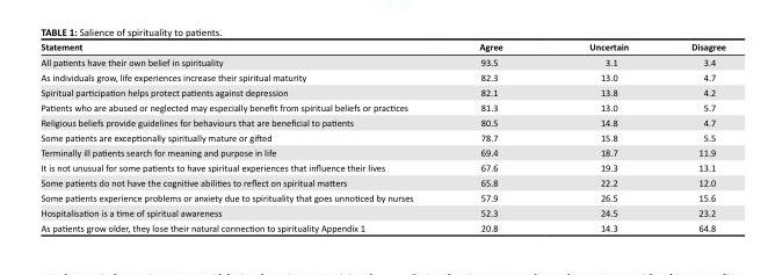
<table><thead><tr><td>Statement</td><td>Agree</td><td>Uncertain</td><td>Disagree</td></tr></thead><tbody><tr><td>All patients have their own belief in spirituality</td><td>93.5</td><td>3.1</td><td>3.4</td></tr><tr><td>As individuals grow, life experiences increase their spiritual maturity</td><td>82.3</td><td>13.0</td><td>4.7</td></tr><tr><td>Spiritual participation helps protect patients against depression</td><td>82.1</td><td>13.8</td><td>4.2</td></tr><tr><td>Patients who are abused or neglected may especially benefit from spiritual beliefs or practices</td><td>81.3</td><td>13.0</td><td>5.7</td></tr><tr><td>Religious beliefs provide guidelines for behaviours that are beneficial to patients</td><td>80.5</td><td>14.8</td><td>4.7</td></tr><tr><td>Some patients are exceptionally spiritually mature or gifted</td><td>78.7</td><td>15.8</td><td>5.5</td></tr><tr><td>Terminally ill patients search for meaning and purpose in life</td><td>69.4</td><td>18.7</td><td>11.9</td></tr><tr><td>It is not unusual for some patients to have spiritual experiences that influence their lives</td><td>67.6</td><td>19.3</td><td>13.1</td></tr><tr><td>Some patients do not have the cognitive abilities to reflect on spiritual matters</td><td>65.8</td><td>22.2</td><td>12.0</td></tr><tr><td>Some patients experience problems or anxiety due to spirituality that goes unnoticed by nurses</td><td>57.9</td><td>26.5</td><td>15.6</td></tr><tr><td>Hospitalisation is a time of spiritual awareness</td><td>52.3</td><td>24.5</td><td>23.2</td></tr><tr><td>As patients grow older, they lose their natural connection to spirituality Appendix 1</td><td>20.8</td><td>14.3</td><td>64.8</td></tr></tbody></table>